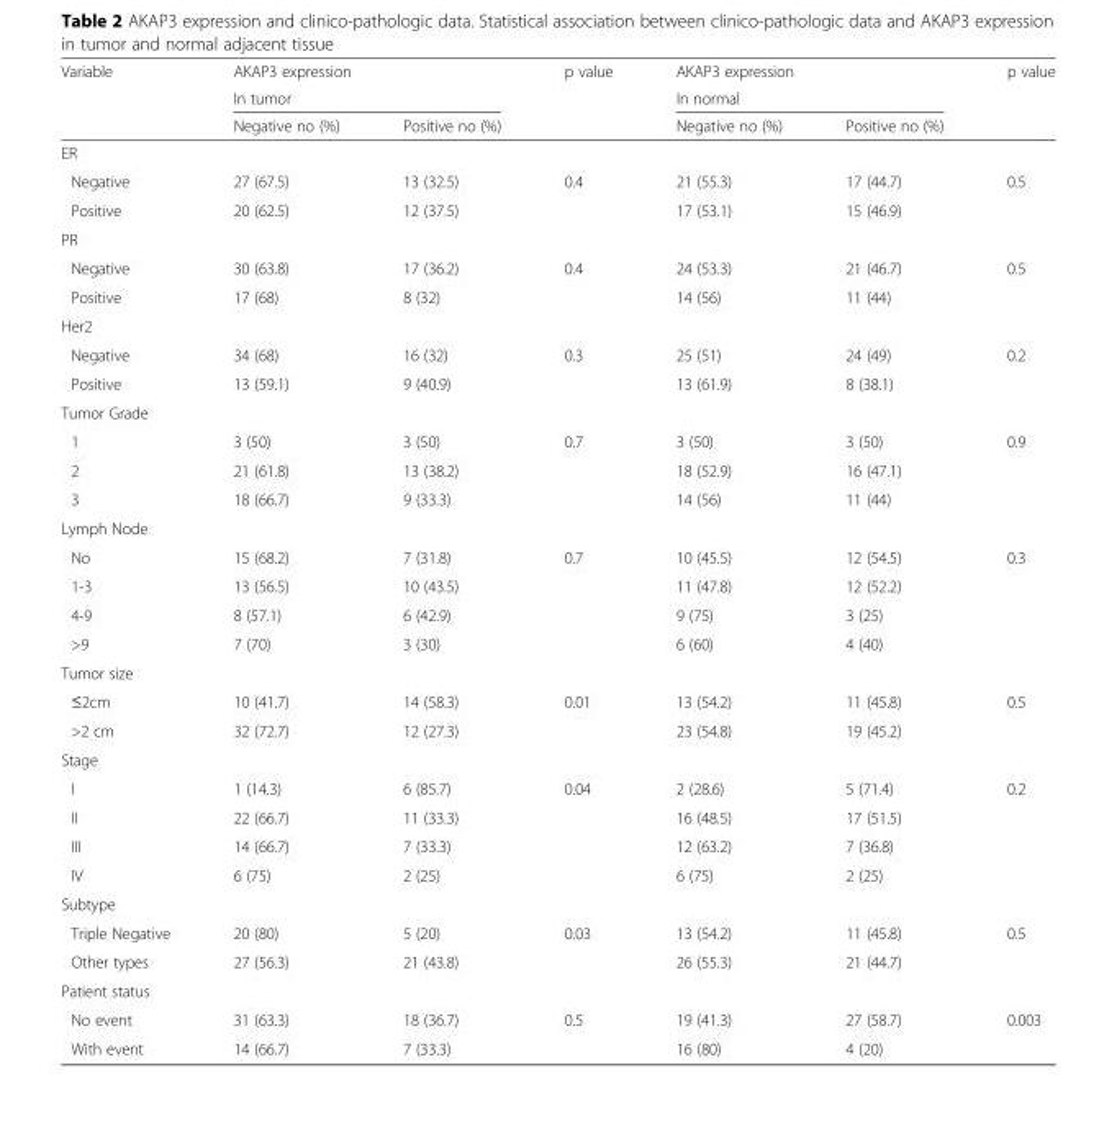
<table><thead><tr><td rowspan="3">Variable</td><td rowspan="2" colspan="2">AKAP3 expression In tumor</td><td rowspan="3">p value</td><td rowspan="2" colspan="2">AKAP3 expression In normal</td><td rowspan="3">p value</td></tr><tr></tr><tr><td>Negative no (%)</td><td>Positive no (%)</td><td>Negative no (%)</td><td>Positive no (%)</td></tr></thead><tbody><tr><td colspan="7">ER</td></tr><tr><td>Negative</td><td>27 (67.5)</td><td>13 (32.5)</td><td>0.4</td><td>21 (55.3)</td><td>17 (44.7)</td><td>0.5</td></tr><tr><td>Positive</td><td>20 (62.5)</td><td>12 (37.5)</td><td></td><td>17 (53.1)</td><td>15 (46.9)</td><td></td></tr><tr><td colspan="7">PR</td></tr><tr><td>Negative</td><td>30 (63.8)</td><td>17 (36.2)</td><td>0.4</td><td>24 (53.3)</td><td>21 (46.7)</td><td>0.5</td></tr><tr><td>Positive</td><td>17 (68)</td><td>8 (32)</td><td></td><td>14 (56)</td><td>11 (44)</td><td></td></tr><tr><td colspan="7">Her2</td></tr><tr><td>Negative</td><td>34 (68)</td><td>16 (32)</td><td>0.3</td><td>25 (51)</td><td>24 (49)</td><td>0.2</td></tr><tr><td>Positive</td><td>13 (59.1)</td><td>9 (40.9)</td><td></td><td>13 (61.9)</td><td>8 (38.1)</td><td></td></tr><tr><td colspan="7">Tumor Grade</td></tr><tr><td>1</td><td>3 (50)</td><td>3 (50)</td><td>0.7</td><td>3 (50)</td><td>3 (50)</td><td>0.9</td></tr><tr><td>2</td><td>21 (61.8)</td><td>13 (38.2)</td><td></td><td>18 (52.9)</td><td>16 (47.1)</td><td></td></tr><tr><td>3</td><td>18 (66.7)</td><td>9 (33.3)</td><td></td><td>14 (56)</td><td>11 (44)</td><td></td></tr><tr><td colspan="7">Lymph Node</td></tr><tr><td>No</td><td>15 (68.2)</td><td>7 (31.8)</td><td>0.7</td><td>10 (45.5)</td><td>12 (54.5)</td><td>0.3</td></tr><tr><td>1-3</td><td>13 (56.5)</td><td>10 (43.5)</td><td></td><td>11 (47.8)</td><td>12 (52.2)</td><td></td></tr><tr><td>4-9</td><td>8 (57.1)</td><td>6 (42.9)</td><td></td><td>9 (75)</td><td>3 (25)</td><td></td></tr><tr><td>&gt;9</td><td>7 (70)</td><td>3 (30)</td><td></td><td>6 (60)</td><td>4 (40)</td><td></td></tr><tr><td colspan="7">Tumor size</td></tr><tr><td>≤2cm</td><td>10 (41.7)</td><td>14 (58.3)</td><td>0.01</td><td>13 (54.2)</td><td>11 (45.8)</td><td>0.5</td></tr><tr><td>&gt;2 cm</td><td>32 (72.7)</td><td>12 (27.3)</td><td></td><td>23 (54.8)</td><td>19 (45.2)</td><td></td></tr><tr><td colspan="7">Stage</td></tr><tr><td>I</td><td>1 (14.3)</td><td>6 (85.7)</td><td>0.04</td><td>2 (28.6)</td><td>5 (71.4)</td><td>0.2</td></tr><tr><td>II</td><td>22 (66.7)</td><td>11 (33.3)</td><td></td><td>16 (48.5)</td><td>17 (51.5)</td><td></td></tr><tr><td>III</td><td>14 (66.7)</td><td>7 (33.3)</td><td></td><td>12 (63.2)</td><td>7 (36.8)</td><td></td></tr><tr><td>IV</td><td>6 (75)</td><td>2 (25)</td><td></td><td>6 (75)</td><td>2 (25)</td><td></td></tr><tr><td colspan="7">Subtype</td></tr><tr><td>Triple Negative</td><td>20 (80)</td><td>5 (20)</td><td>0.03</td><td>13 (54.2)</td><td>11 (45.8)</td><td>0.5</td></tr><tr><td>Other types</td><td>27 (56.3)</td><td>21 (43.8)</td><td></td><td>26 (55.3)</td><td>21 (44.7)</td><td></td></tr><tr><td colspan="7">Patient status</td></tr><tr><td>No event</td><td>31 (63.3)</td><td>18 (36.7)</td><td>0.5</td><td>19 (41.3)</td><td>27 (58.7)</td><td>0.003</td></tr><tr><td>With event</td><td>14 (66.7)</td><td>7 (33.3)</td><td></td><td>16 (80)</td><td>4 (20)</td><td></td></tr></tbody></table>